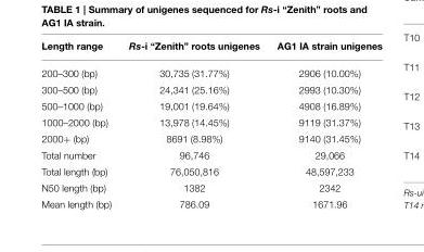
<table><thead><tr><td>Length range</td><td>Rs-i “Zenith” roots unigenes</td><td>AG1 IA strain unigenes</td></tr></thead><tbody><tr><td>200–300 (bp)</td><td>30,735 (31.77%)</td><td>2906 (10.00%)</td></tr><tr><td>300–500 (bp)</td><td>24,341 (25.16%)</td><td>2993 (10.30%)</td></tr><tr><td>500–1000 (bp)</td><td>19,001 (19.64%)</td><td>4908 (16.89%)</td></tr><tr><td>1000–2000 (bp)</td><td>13,978 (14.45%)</td><td>9119 (31.37%)</td></tr><tr><td>2000+ (bp)</td><td>8691 (8.98%)</td><td>9140 (31.45%)</td></tr><tr><td>Total number</td><td>96,746</td><td>29,066</td></tr><tr><td>Total length (bp)</td><td>76,050,816</td><td>48,597,233</td></tr><tr><td>N50 length (bp)</td><td>1382</td><td>2342</td></tr><tr><td>Mean length (bp)</td><td>786.09</td><td>1671.96</td></tr></tbody></table>